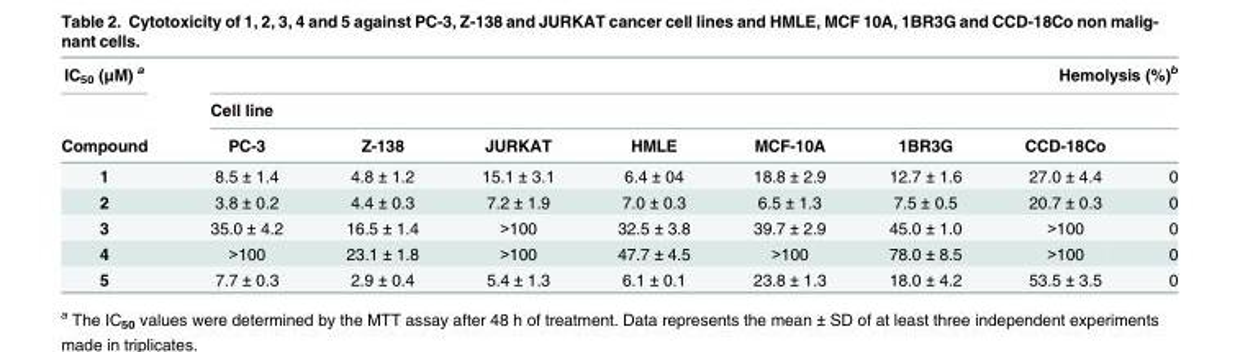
<table><thead><tr><td rowspan="3">IC<sub>50</sub> (μM) <sup>a</sup> Compound</td><td rowspan="2" colspan="8">Hemolysis (%)<sup>b</sup> Cell line</td></tr><tr></tr><tr><td>PC-3</td><td>Z-138</td><td>JURKAT</td><td>HMLE</td><td>MCF-10A</td><td>1BR3G</td><td>CCD-18Co</td><td></td></tr></thead><tbody><tr><td>1</td><td>8.5 ± 1.4</td><td>4.8 ± 1.2</td><td>15.1 ± 3.1</td><td>6.4 ± 04</td><td>18.8 ± 2.9</td><td>12.7 ± 1.6</td><td>27.0 ± 4.4</td><td>0</td></tr><tr><td>2</td><td>3.8 ± 0.2</td><td>4.4 ± 0.3</td><td>7.2 ± 1.9</td><td>7.0 ± 0.3</td><td>6.5 ± 1.3</td><td>7.5 ± 0.5</td><td>20.7 ± 0.3</td><td>0</td></tr><tr><td>3</td><td>35.0 ± 4.2</td><td>16.5 ± 1.4</td><td>&gt;100</td><td>32.5 ± 3.8</td><td>39.7 ± 2.9</td><td>45.0 ± 1.0</td><td>&gt;100</td><td>0</td></tr><tr><td>4</td><td>&gt;100</td><td>23.1 ± 1.8</td><td>&gt;100</td><td>47.7 ± 4.5</td><td>&gt;100</td><td>78.0 ± 8.5</td><td>&gt;100</td><td>0</td></tr><tr><td>5</td><td>7.7 ± 0.3</td><td>2.9 ± 0.4</td><td>5.4 ± 1.3</td><td>6.1 ± 0.1</td><td>23.8 ± 1.3</td><td>18.0 ± 4.2</td><td>53.5 ± 3.5</td><td>0</td></tr></tbody></table>